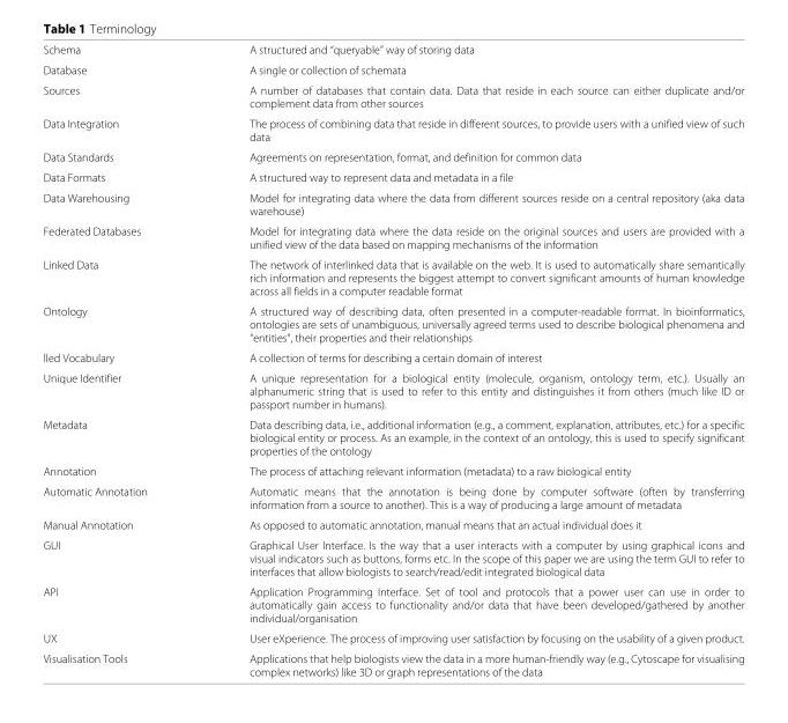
<table><tbody><tr><td>Schema</td><td>A structured and “queryable” way of storing data</td></tr><tr><td>Database</td><td>A single or collection of schemata</td></tr><tr><td>Sources</td><td>A number of databases that contain data. Data that reside in each source can either duplicate and/or complement data from other sources</td></tr><tr><td>Data Integration</td><td>The process of combining data that reside in different sources, to provide users with a unified view of such data</td></tr><tr><td>Data Standards</td><td>Agreements on representation, format, and definition for common data</td></tr><tr><td>Data Formats</td><td>A structured way to represent data and metadata in a file</td></tr><tr><td>Data Warehousing</td><td>Model for integrating data where the data from different sources reside on a central repository (aka data warehouse)</td></tr><tr><td>Federated Databases</td><td>Model for integrating data where the data reside on the original sources and users are provided with a unified view of the data based on mapping mechanisms of the information</td></tr><tr><td>Linked Data</td><td>The network of interlinked data that is available on the web. It is used to automatically share semantically rich information and represents the biggest attempt to convert significant amounts of human knowledge across all fields in a computer readable format</td></tr><tr><td>Ontology</td><td>A structured way of describing data, often presented in a computer-readable format. In bioinformatics, ontologies are sets of unambiguous, universally agreed terms used to describe biological phenomena and “entities”, their properties and their relationships</td></tr><tr><td>lled Vocabulary</td><td>A collection of terms for describing a certain domain of interest</td></tr><tr><td>Unique Identifier</td><td>A unique representation for a biological entity (molecule, organism, ontology term, etc.). Usually an alphanumeric string that is used to refer to this entity and distinguishes it from others (much like ID or passport number in humans).</td></tr><tr><td>Metadata</td><td>Data describing data, i.e., additional information (e.g., a comment, explanation, attributes, etc.) for a specific biological entity or process. As an example, in the context of an ontology, this is used to specify significant properties of the ontology</td></tr><tr><td>Annotation</td><td>The process of attaching relevant information (metadata) to a raw biological entity</td></tr><tr><td>Automatic Annotation</td><td>Automatic means that the annotation is being done by computer software (often by transferring information from a source to another). This is a way of producing a large amount of metadata</td></tr><tr><td>Manual Annotation</td><td>As opposed to automatic annotation, manual means that an actual individual does it</td></tr><tr><td>GUI</td><td>Graphical User Interface. Is the way that a user interacts with a computer by using graphical icons and visual indicators such as buttons, forms etc. In the scope of this paper we are using the term GUI to refer to interfaces that allow biologists to search/read/edit integrated biological data</td></tr><tr><td>API</td><td>Application Programming Interface. Set of tool and protocols that a power user can use in order to automatically gain access to functionality and/or data that have been developed/gathered by another individual/organisation</td></tr><tr><td>UX</td><td>User eXperience. The process of improving user satisfaction by focusing on the usability of a given product.</td></tr><tr><td>Visualisation Tools</td><td>Applications that help biologists view the data in a more human-friendly way (e.g., Cytoscape for visualising complex networks) like 3D or graph representations of the data</td></tr></tbody></table>